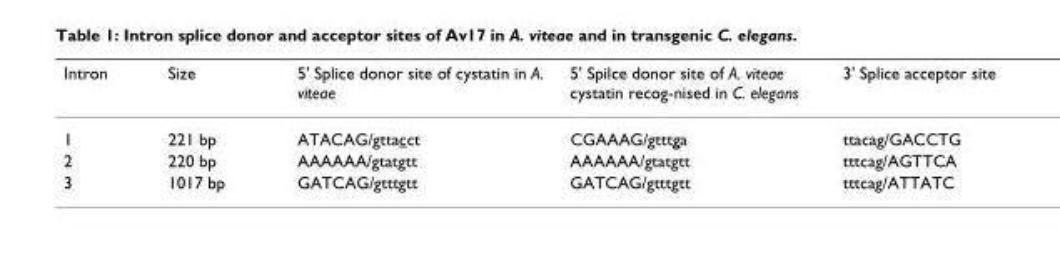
<table><thead><tr><td>Intron</td><td>Size</td><td>5&#x27; Splice donor site of cystatin in A. viteae</td><td>5&#x27; Spilce donor site of A. viteae cystatin recog-nised in C. elegans</td><td>3&#x27; Splice acceptor site</td></tr></thead><tbody><tr><td>1</td><td>221 bp</td><td>ATACAG/gttacct</td><td>CGAAAG/gtttga</td><td>ttacag/GACCTG</td></tr><tr><td>2</td><td>220 bp</td><td>AAAAAA/gtatgtt</td><td>AAAAAA/gtatgtt</td><td>tttcag/AGTTCA</td></tr><tr><td>3</td><td>1017 bp</td><td>GATCAG/gtttgtt</td><td>GATCAG/gtttgtt</td><td>tttcag/ATTATC</td></tr></tbody></table>